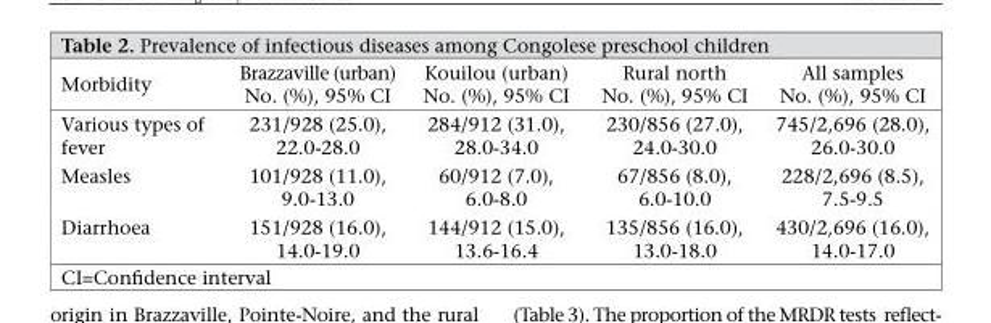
<table><thead><tr><td>Morbidity</td><td>Brazzaville (urban) No. (%), 95% CI</td><td>Kouilou (urban) No. (%), 95% CI</td><td>Rural north No. (%), 95% CI</td><td>All samples No. (%), 95% CI</td></tr></thead><tbody><tr><td>Various types of fever</td><td>231/928 (25.0), 22.0-28.0</td><td>284/912 (31.0), 28.0-34.0</td><td>230/856 (27.0), 24.0-30.0</td><td>745/2,696 (28.0), 26.0-30.0</td></tr><tr><td>Measles</td><td>101/928 (11.0), 9.0-13.0</td><td>60/912 (7.0), 6.0-8.0</td><td>67/856 (8.0), 6.0-10.0</td><td>228/2,696 (8.5), 7.5-9.5</td></tr><tr><td>Diarrhoea</td><td>151/928 (16.0), 14.0-19.0</td><td>144/912 (15.0), 13.6-16.4</td><td>135/856 (16.0), 13.0-18.0</td><td>430/2,696 (16.0), 14.0-17.0</td></tr></tbody></table>